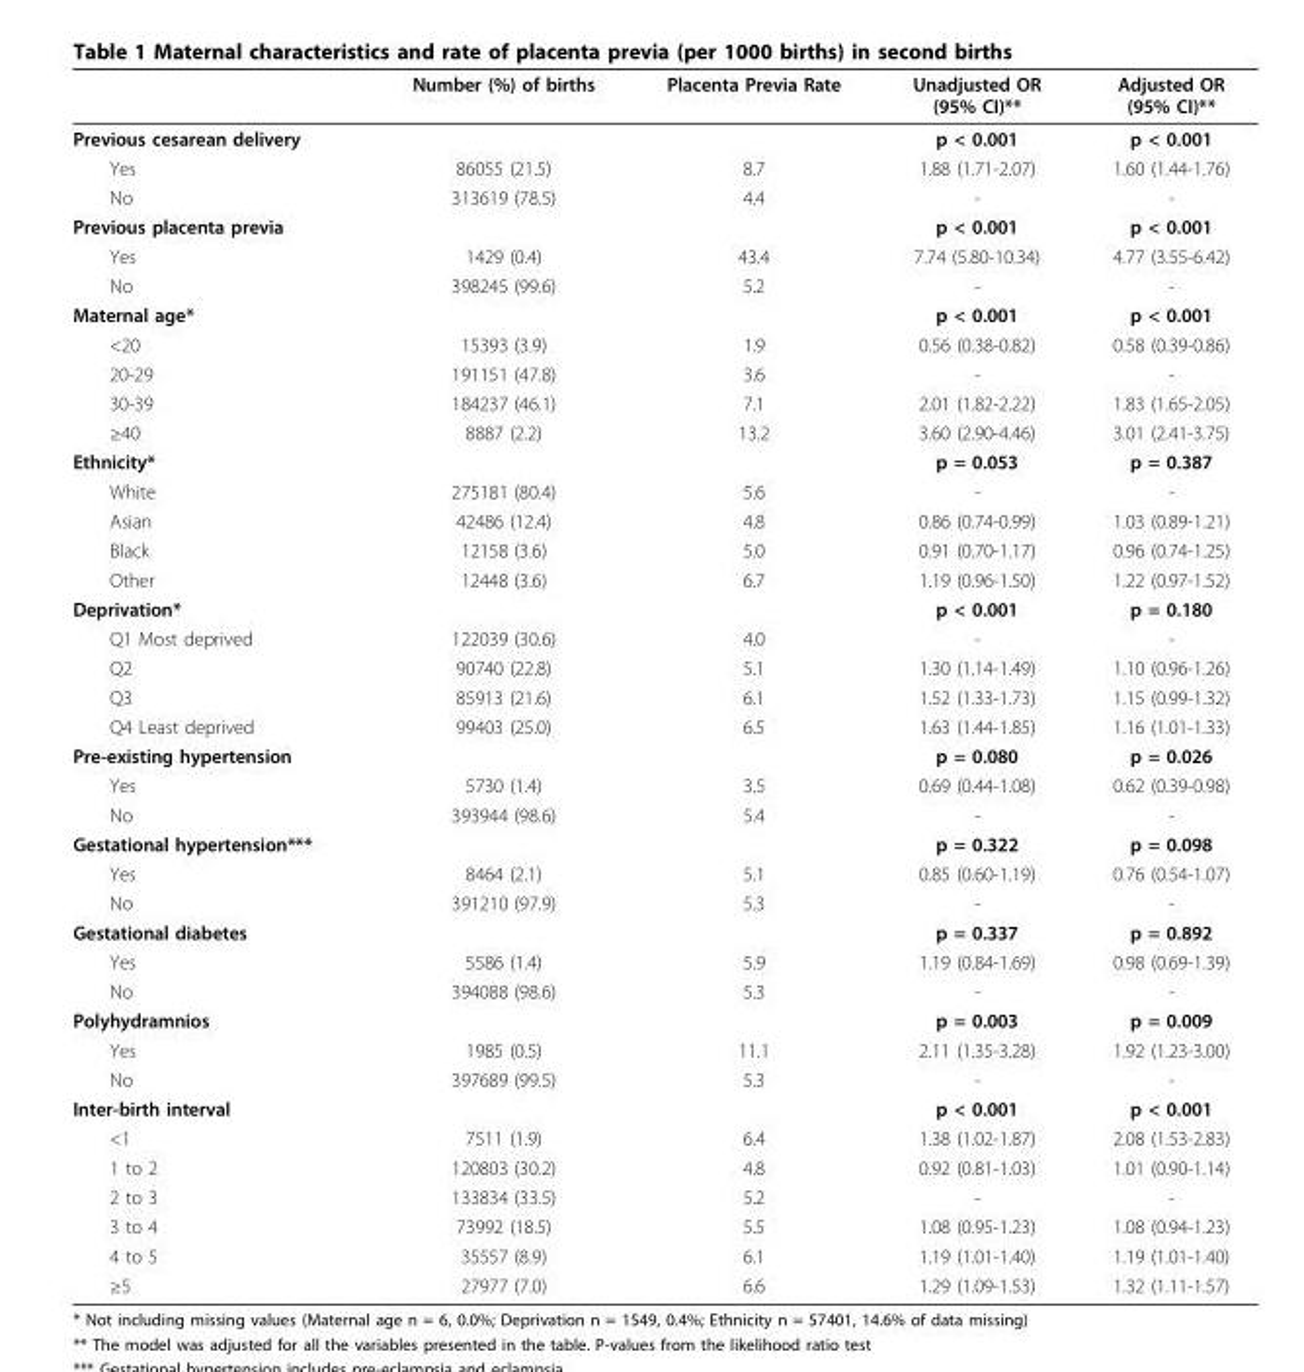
<table><thead><tr><td></td><td>Number (%) of births</td><td>Placenta Previa Rate</td><td>Unadjusted OR (95% CI)**</td><td>Adjusted OR (95% CI)**</td></tr></thead><tbody><tr><td>Previous cesarean delivery</td><td></td><td></td><td>p &lt; 0.001</td><td>p &lt; 0.001</td></tr><tr><td>Yes</td><td>86055 (21.5)</td><td>8.7</td><td>1.88 (1.71-2.07)</td><td>1.60 (1.44-1.76)</td></tr><tr><td>No</td><td>313619 (78.5)</td><td>4.4</td><td>-</td><td>-</td></tr><tr><td>Previous placenta previa</td><td></td><td></td><td>p &lt; 0.001</td><td>p &lt; 0.001</td></tr><tr><td>Yes</td><td>1429 (0.4)</td><td>43.4</td><td>7.74 (5.80-10.34)</td><td>4.77 (3.55-6.42)</td></tr><tr><td>No</td><td>398245 (99.6)</td><td>5.2</td><td>-</td><td>-</td></tr><tr><td>Maternal age*</td><td></td><td></td><td>p &lt; 0.001</td><td>p &lt; 0.001</td></tr><tr><td>&lt;20</td><td>15393 (3.9)</td><td>1.9</td><td>0.56 (0.38-0.82)</td><td>0.58 (0.39-0.86)</td></tr><tr><td>20-29</td><td>191151 (47.8)</td><td>3.6</td><td>-</td><td>-</td></tr><tr><td>30-39</td><td>184237 (46.1)</td><td>7.1</td><td>2.01 (1.82-2.22)</td><td>1.83 (1.65-2.05)</td></tr><tr><td>≥40</td><td>8887 (2.2)</td><td>13.2</td><td>3.60 (2.90-4.46)</td><td>3.01 (2.41-3.75)</td></tr><tr><td>Ethnicity*</td><td></td><td></td><td>p = 0.053</td><td>p = 0.387</td></tr><tr><td>White</td><td>275181 (80.4)</td><td>5.6</td><td>-</td><td>-</td></tr><tr><td>Asian</td><td>42486 (12.4)</td><td>4.8</td><td>0.86 (0.74-0.99)</td><td>1.03 (0.89-1.21)</td></tr><tr><td>Black</td><td>12158 (3.6)</td><td>5.0</td><td>0.91 (0.70-1.17)</td><td>0.96 (0.74-1.25)</td></tr><tr><td>Other</td><td>12448 (3.6)</td><td>6.7</td><td>1.19 (0.96-1.50)</td><td>1.22 (0.97-1.52)</td></tr><tr><td>Deprivation*</td><td></td><td></td><td>p &lt; 0.001</td><td>p = 0.180</td></tr><tr><td>Q1 Most deprived</td><td>122039 (30.6)</td><td>4.0</td><td>-</td><td>-</td></tr><tr><td>Q2</td><td>90740 (22.8)</td><td>5.1</td><td>1.30 (1.14-1.49)</td><td>1.10 (0.96-1.26)</td></tr><tr><td>Q3</td><td>85913 (21.6)</td><td>6.1</td><td>1.52 (1.33-1.73)</td><td>1.15 (0.99-1.32)</td></tr><tr><td>Q4 Least deprived</td><td>99403 (25.0)</td><td>6.5</td><td>1.63 (1.44-1.85)</td><td>1.16 (1.01-1.33)</td></tr><tr><td>Pre-existing hypertension</td><td></td><td></td><td>p = 0.080</td><td>p = 0.026</td></tr><tr><td>Yes</td><td>5730 (1.4)</td><td>3.5</td><td>0.69 (0.44-1.08)</td><td>0.62 (0.39-0.98)</td></tr><tr><td>No</td><td>393944 (98.6)</td><td>5.4</td><td>-</td><td>-</td></tr><tr><td>Gestational hypertension***</td><td></td><td></td><td>p = 0.322</td><td>p = 0.098</td></tr><tr><td>Yes</td><td>8464 (2.1)</td><td>5.1</td><td>0.85 (0.60-1.19)</td><td>0.76 (0.54-1.07)</td></tr><tr><td>No</td><td>391210 (97.9)</td><td>5.3</td><td>-</td><td>-</td></tr><tr><td>Gestational diabetes</td><td></td><td></td><td>p = 0.337</td><td>p = 0.892</td></tr><tr><td>Yes</td><td>5586 (1.4)</td><td>5.9</td><td>1.19 (0.84-1.69)</td><td>0.98 (0.69-1.39)</td></tr><tr><td>No</td><td>394088 (98.6)</td><td>5.3</td><td>-</td><td>-</td></tr><tr><td>Polyhydramnios</td><td></td><td></td><td>p = 0.003</td><td>p = 0.009</td></tr><tr><td>Yes</td><td>1985 (0.5)</td><td>11.1</td><td>2.11 (1.35-3.28)</td><td>1.92 (1.23-3.00)</td></tr><tr><td>No</td><td>397689 (99.5)</td><td>5.3</td><td>-</td><td>-</td></tr><tr><td>Inter-birth interval</td><td></td><td></td><td>p &lt; 0.001</td><td>p &lt; 0.001</td></tr><tr><td>&lt;1</td><td>7511 (1.9)</td><td>6.4</td><td>1.38 (1.02-1.87)</td><td>2.08 (1.53-2.83)</td></tr><tr><td>1 to 2</td><td>120803 (30.2)</td><td>4.8</td><td>0.92 (0.81-1.03)</td><td>1.01 (0.90-1.14)</td></tr><tr><td>2 to 3</td><td>133834 (33.5)</td><td>5.2</td><td>-</td><td>-</td></tr><tr><td>3 to 4</td><td>73992 (18.5)</td><td>5.5</td><td>1.08 (0.95-1.23)</td><td>1.08 (0.94-1.23)</td></tr><tr><td>4 to 5</td><td>35557 (8.9)</td><td>6.1</td><td>1.19 (1.01-1.40)</td><td>1.19 (1.01-1.40)</td></tr><tr><td>≥5</td><td>27977 (7.0)</td><td>6.6</td><td>1.29 (1.09-1.53)</td><td>1.32 (1.11-1.57)</td></tr></tbody></table>